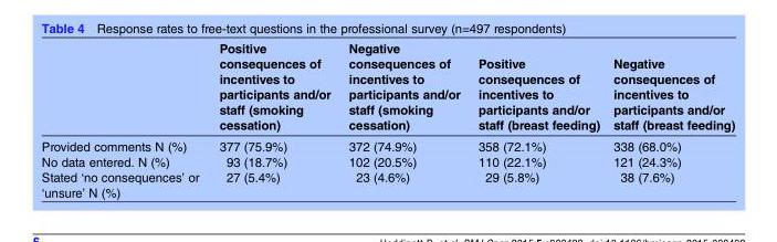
<table><thead><tr><td></td><td>Positive consequences of incentives to participants and/or staff (smoking cessation)</td><td>Negative consequences of incentives to participants and/or staff (smoking cessation)</td><td>Positive consequences of incentives to participants and/or staff (breast feeding)</td><td>Negative consequences of incentives to participants and/or staff (breast feeding)</td></tr></thead><tbody><tr><td>Provided comments N (%)</td><td>377 (75.9%)</td><td>372 (74.9%)</td><td>358 (72.1%)</td><td>338 (68.0%)</td></tr><tr><td>No data entered. N (%)</td><td>93 (18.7%)</td><td>102 (20.5%)</td><td>110 (22.1%)</td><td>121 (24.3%)</td></tr><tr><td>Stated ‘no consequences’ or ‘unsure’ N (%)</td><td>27 (5.4%)</td><td>23 (4.6%)</td><td>29 (5.8%)</td><td>38 (7.6%)</td></tr></tbody></table>